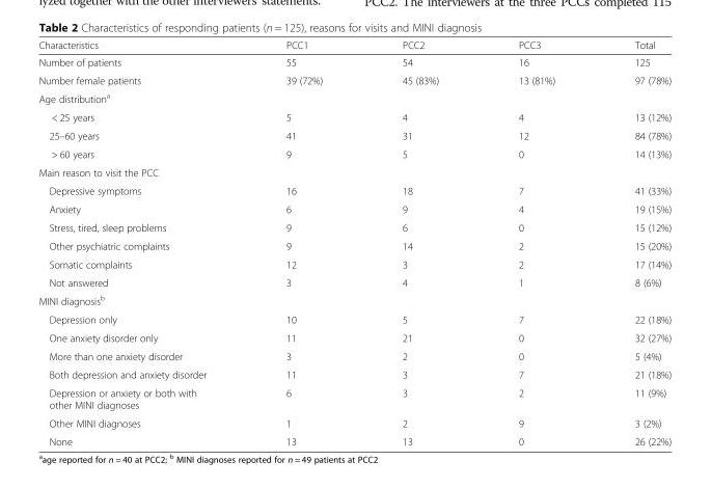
<table><thead><tr><td>Characteristics</td><td>PCC1</td><td>PCC2</td><td>PCC3</td><td>Total</td></tr></thead><tbody><tr><td>Number of patients</td><td>55</td><td>54</td><td>16</td><td>125</td></tr><tr><td>Number female patients</td><td>39 (72%)</td><td>45 (83%)</td><td>13 (81%)</td><td>97 (78%)</td></tr><tr><td colspan="5">Age distribution<sup>a</sup></td></tr><tr><td>&lt; 25 years</td><td>5</td><td>4</td><td>4</td><td>13 (12%)</td></tr><tr><td>25–60 years</td><td>41</td><td>31</td><td>12</td><td>84 (78%)</td></tr><tr><td>&gt; 60 years</td><td>9</td><td>5</td><td>0</td><td>14 (13%)</td></tr><tr><td colspan="5">Main reason to visit the PCC</td></tr><tr><td>Depressive symptoms</td><td>16</td><td>18</td><td>7</td><td>41 (33%)</td></tr><tr><td>Anxiety</td><td>6</td><td>9</td><td>4</td><td>19 (15%)</td></tr><tr><td>Stress, tired, sleep problems</td><td>9</td><td>6</td><td>0</td><td>15 (12%)</td></tr><tr><td>Other psychiatric complaints</td><td>9</td><td>14</td><td>2</td><td>15 (20%)</td></tr><tr><td>Somatic complaints</td><td>12</td><td>3</td><td>2</td><td>17 (14%)</td></tr><tr><td>Not answered</td><td>3</td><td>4</td><td>1</td><td>8 (6%)</td></tr><tr><td colspan="5">MINI diagnosis<sup>b</sup></td></tr><tr><td>Depression only</td><td>10</td><td>5</td><td>7</td><td>22 (18%)</td></tr><tr><td>One anxiety disorder only</td><td>11</td><td>21</td><td>0</td><td>32 (27%)</td></tr><tr><td>More than one anxiety disorder</td><td>3</td><td>2</td><td>0</td><td>5 (4%)</td></tr><tr><td>Both depression and anxiety disorder</td><td>11</td><td>3</td><td>7</td><td>21 (18%)</td></tr><tr><td>Depression or anxiety or both with other MINI diagnoses</td><td>6</td><td>3</td><td>2</td><td>11 (9%)</td></tr><tr><td>Other MINI diagnoses</td><td>1</td><td>2</td><td>9</td><td>3 (2%)</td></tr><tr><td>None</td><td>13</td><td>13</td><td>0</td><td>26 (22%)</td></tr></tbody></table>